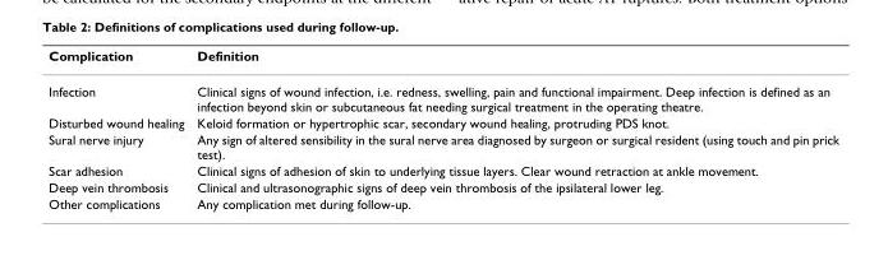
<table><thead><tr><td>Complication</td><td>Definition</td></tr></thead><tbody><tr><td>Infection</td><td>Clinical signs of wound infection, i.e. redness, swelling, pain and functional impairment. Deep infection is defined as an infection beyond skin or subcutaneous fat needing surgical treatment in the operating theatre.</td></tr><tr><td>Disturbed wound healing</td><td>Keloid formation or hypertrophic scar, secondary wound healing, protruding PDS knot.</td></tr><tr><td>Sural nerve injury</td><td>Any sign of altered sensibility in the sural nerve area diagnosed by surgeon or surgical resident (using touch and pin prick test).</td></tr><tr><td>Scar adhesion</td><td>Clinical signs of adhesion of skin to underlying tissue layers. Clear wound retraction at ankle movement.</td></tr><tr><td>Deep vein thrombosis</td><td>Clinical and ultrasonographic signs of deep vein thrombosis of the ipsilateral lower leg.</td></tr><tr><td>Other complications</td><td>Any complication met during follow-up.</td></tr></tbody></table>